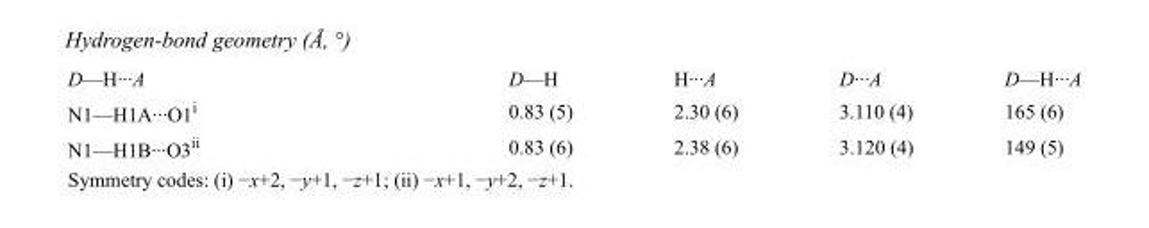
<table><tbody><tr><td>D—H···A</td><td>D—H</td><td>H···A</td><td>D···A</td><td>D—H···A</td></tr><tr><td>N1—H1A···O1<sup>i</sup></td><td>0.83 (5)</td><td>2.30 (6)</td><td>3.110 (4)</td><td>165 (6)</td></tr><tr><td>N1—H1B···O3<sup>ii</sup></td><td>0.83 (6)</td><td>2.38 (6)</td><td>3.120 (4)</td><td>149 (5)</td></tr></tbody></table>